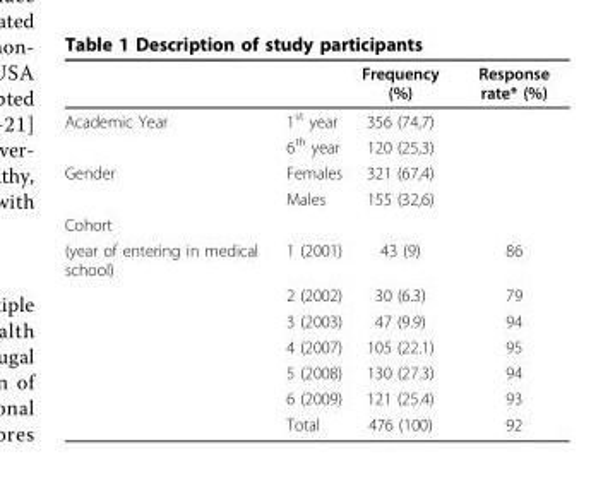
<table><thead><tr><td></td><td></td><td>Frequency (%)</td><td>Response rate* (%)</td></tr></thead><tbody><tr><td rowspan="2">Academic Year</td><td>1<sup>st</sup> year</td><td>356 (74,7)</td><td></td></tr><tr><td>6<sup>th</sup> year</td><td>120 (25,3)</td><td></td></tr><tr><td rowspan="2">Gender</td><td>Females</td><td>321 (67,4)</td><td></td></tr><tr><td>Males</td><td>155 (32,6)</td><td></td></tr><tr><td colspan="4">Cohort</td></tr><tr><td rowspan="7">(year of entering in medical school)</td><td>1 (2001)</td><td>43 (9)</td><td>86</td></tr><tr><td>2 (2002)</td><td>30 (6.3)</td><td>79</td></tr><tr><td>3 (2003)</td><td>47 (9.9)</td><td>94</td></tr><tr><td>4 (2007)</td><td>105 (22.1)</td><td>95</td></tr><tr><td>5 (2008)</td><td>130 (27.3)</td><td>94</td></tr><tr><td>6 (2009)</td><td>121 (25.4)</td><td>93</td></tr><tr><td>Total</td><td>476 (100)</td><td>92</td></tr></tbody></table>